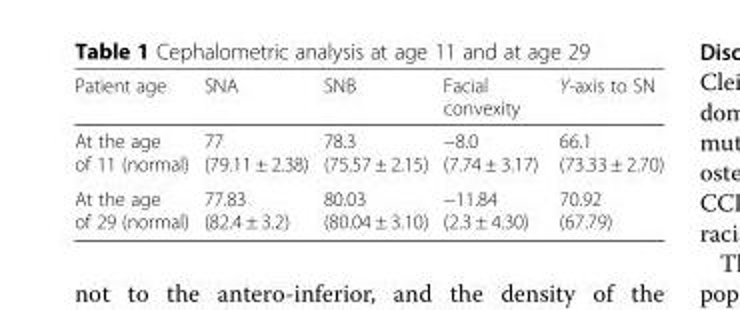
<table><thead><tr><td>Patient age</td><td>SNA</td><td>SNB</td><td>Facial convexity</td><td>Y-axis to SN</td></tr></thead><tbody><tr><td>At the age of 11 (normal)</td><td>77 (79.11 ± 2.38)</td><td>78.3 (75.57 ± 2.15)</td><td>−8.0 (7.74 ± 3.17)</td><td>66.1 (73.33 ± 2.70)</td></tr><tr><td>At the age of 29 (normal)</td><td>77.83 (82.4 ± 3.2)</td><td>80.03 (80.04 ± 3.10)</td><td>−11.84 (2.3 ± 4.30)</td><td>70.92 (67.79)</td></tr></tbody></table>